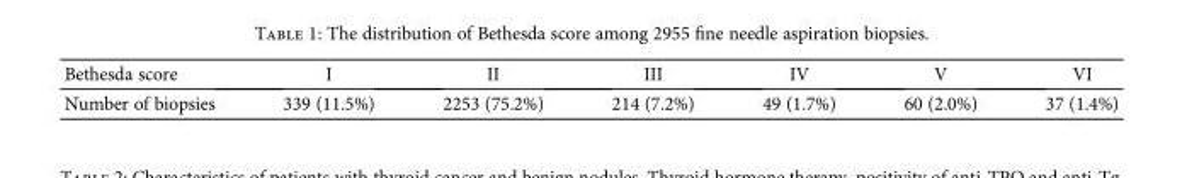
<table><thead><tr><td>Bethesda score</td><td>I</td><td>II</td><td>III</td><td>IV</td><td>V</td><td>VI</td></tr></thead><tbody><tr><td>Number of biopsies</td><td>339 (11.5%)</td><td>2253 (75.2%)</td><td>214 (7.2%)</td><td>49 (1.7%)</td><td>60 (2.0%)</td><td>37 (1.4%)</td></tr></tbody></table>